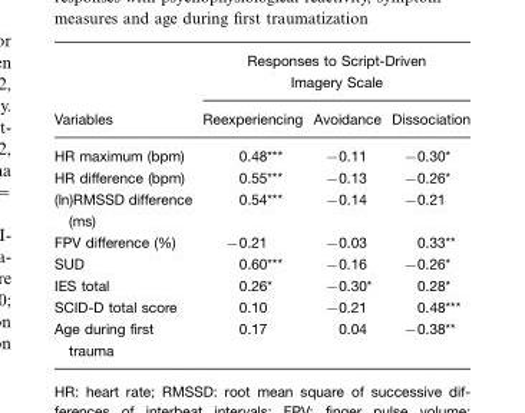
<table><thead><tr><td rowspan="2">Variables</td><td colspan="3">Responses to Script-Driven Imagery Scale</td></tr><tr><td>Reexperiencing</td><td>Avoidance</td><td>Dissociation</td></tr></thead><tbody><tr><td>HR maximum (bpm)</td><td>0.48***</td><td>−0.11</td><td>−0.30*</td></tr><tr><td>HR difference (bpm)</td><td>0.55***</td><td>−0.13</td><td>−0.26*</td></tr><tr><td>(ln)RMSSD difference (ms)</td><td>0.54***</td><td>−0.14</td><td>−0.21</td></tr><tr><td>FPV difference (%)</td><td>−0.21</td><td>−0.03</td><td>0.33**</td></tr><tr><td>SUD</td><td>0.60***</td><td>−0.16</td><td>−0.26*</td></tr><tr><td>IES total</td><td>0.26*</td><td>−0.30*</td><td>0.28*</td></tr><tr><td>SCID-D total score</td><td>0.10</td><td>−0.21</td><td>0.48***</td></tr><tr><td>Age during first trauma</td><td>0.17</td><td>0.04</td><td>−0.38**</td></tr></tbody></table>